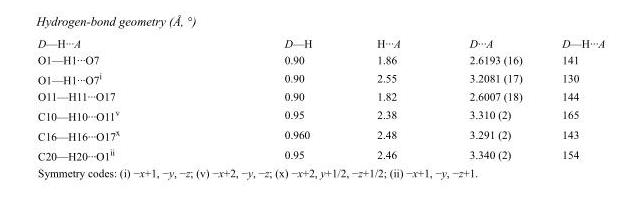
<table><tbody><tr><td>D—H···A</td><td>D—H</td><td>H···A</td><td>D···A</td><td>D—H···A</td></tr><tr><td>O1—H1···O7</td><td>0.90</td><td>1.86</td><td>2.6193 (16)</td><td>141</td></tr><tr><td>O1—H1···O7<sup>i</sup></td><td>0.90</td><td>2.55</td><td>3.2081 (17)</td><td>130</td></tr><tr><td>O11—H11···O17</td><td>0.90</td><td>1.82</td><td>2.6007 (18)</td><td>144</td></tr><tr><td>C10—H10···O11<sup>v</sup></td><td>0.95</td><td>2.38</td><td>3.310 (2)</td><td>165</td></tr><tr><td>C16—H16···O17<sup>x</sup></td><td>0.960</td><td>2.48</td><td>3.291 (2)</td><td>143</td></tr><tr><td>C20—H20···O1<sup>ii</sup></td><td>0.95</td><td>2.46</td><td>3.340 (2)</td><td>154</td></tr></tbody></table>